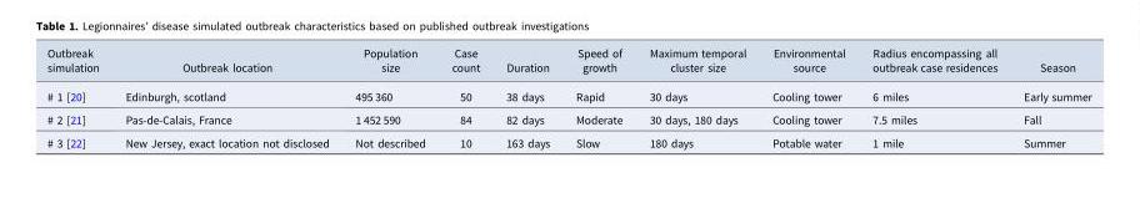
<table><thead><tr><td>Outbreak simulation</td><td>Outbreak location</td><td>Population size</td><td>Case count</td><td>Duration</td><td>Speed of growth</td><td>Maximum temporal cluster size</td><td>Environmental source</td><td>Radius encompassing all outbreak case residences</td><td>Season</td></tr></thead><tbody><tr><td># 1 [20]</td><td>Edinburgh, scotland</td><td>495 360</td><td>50</td><td>38 days</td><td>Rapid</td><td>30 days</td><td>Cooling tower</td><td>6 miles</td><td>Early summer</td></tr><tr><td># 2 [21]</td><td>Pas-de-Calais, France</td><td>1 452 590</td><td>84</td><td>82 days</td><td>Moderate</td><td>30 days, 180 days</td><td>Cooling tower</td><td>7.5 miles</td><td>Fall</td></tr><tr><td># 3 [22]</td><td>New Jersey, exact location not disclosed</td><td>Not described</td><td>10</td><td>163 days</td><td>Slow</td><td>180 days</td><td>Potable water</td><td>1 mile</td><td>Summer</td></tr></tbody></table>